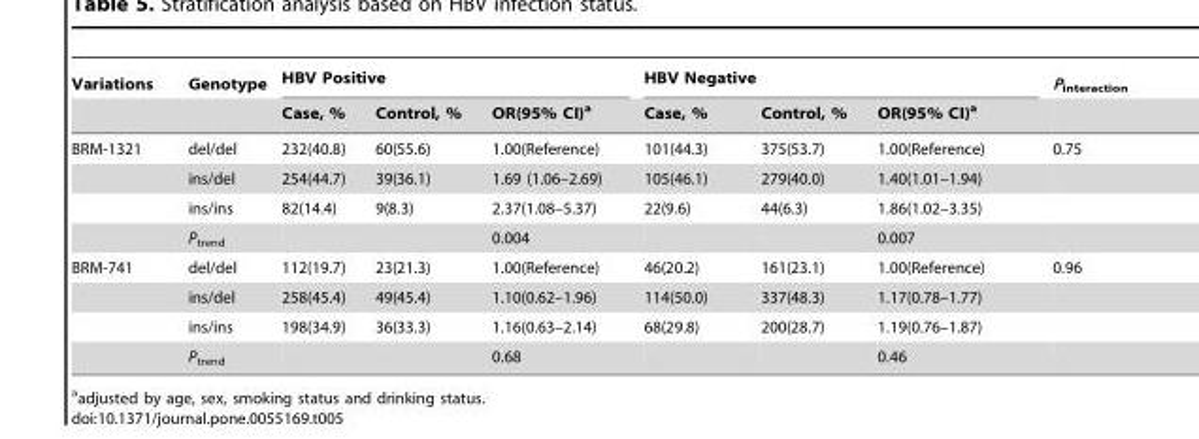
<table><thead><tr><td rowspan="2">Variations</td><td rowspan="2">Genotype</td><td colspan="3">HBV Positive</td><td colspan="3">HBV Negative</td><td rowspan="2">P<sub>interaction</sub></td></tr><tr><td>Case, %</td><td>Control, %</td><td>OR(95% CI)<sup>a</sup></td><td>Case, %</td><td>Control, %</td><td>OR(95% CI)<sup>a</sup></td></tr></thead><tbody><tr><td rowspan="4">BRM-1321</td><td>del/del</td><td>232(40.8)</td><td>60(55.6)</td><td>1.00(Reference)</td><td>101(44.3)</td><td>375(53.7)</td><td>1.00(Reference)</td><td>0.75</td></tr><tr><td>ins/del</td><td>254(44.7)</td><td>39(36.1)</td><td>1.69 (1.06–2.69)</td><td>105(46.1)</td><td>279(40.0)</td><td>1.40(1.01–1.94)</td><td></td></tr><tr><td>ins/ins</td><td>82(14.4)</td><td>9(8.3)</td><td>2.37(1.08–5.37)</td><td>22(9.6)</td><td>44(6.3)</td><td>1.86(1.02–3.35)</td><td></td></tr><tr><td>P<sub>trend</sub></td><td></td><td></td><td>0.004</td><td></td><td></td><td>0.007</td><td></td></tr><tr><td rowspan="4">BRM-741</td><td>del/del</td><td>112(19.7)</td><td>23(21.3)</td><td>1.00(Reference)</td><td>46(20.2)</td><td>161(23.1)</td><td>1.00(Reference)</td><td>0.96</td></tr><tr><td>ins/del</td><td>258(45.4)</td><td>49(45.4)</td><td>1.10(0.62–1.96)</td><td>114(50.0)</td><td>337(48.3)</td><td>1.17(0.78–1.77)</td><td></td></tr><tr><td>ins/ins</td><td>198(34.9)</td><td>36(33.3)</td><td>1.16(0.63–2.14)</td><td>68(29.8)</td><td>200(28.7)</td><td>1.19(0.76–1.87)</td><td></td></tr><tr><td>P<sub>trend</sub></td><td></td><td></td><td>0.68</td><td></td><td></td><td>0.46</td><td></td></tr></tbody></table>